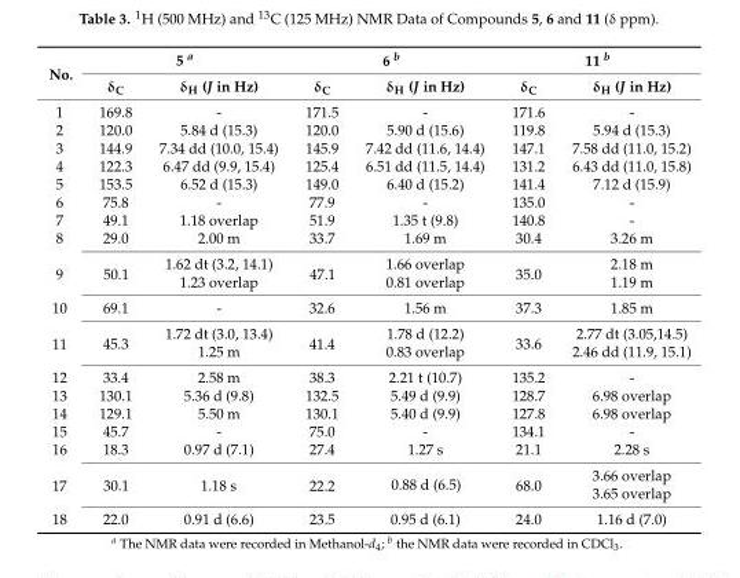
<table><thead><tr><td rowspan="2">No.</td><td colspan="2">5 <sup>a</sup></td><td colspan="2">6 <sup>b</sup></td><td colspan="2">11 <sup>b</sup></td></tr><tr><td>δ<sub>C</sub></td><td>δ<sub>H</sub> (J in Hz)</td><td>δ<sub>C</sub></td><td>δ<sub>H</sub> (J in Hz)</td><td>δ<sub>C</sub></td><td>δ<sub>H</sub> (J in Hz)</td></tr></thead><tbody><tr><td>1</td><td>169.8</td><td>-</td><td>171.5</td><td>-</td><td>171.6</td><td>-</td></tr><tr><td>2</td><td>120.0</td><td>5.84 d (15.3)</td><td>120.0</td><td>5.90 d (15.6)</td><td>119.8</td><td>5.94 d (15.3)</td></tr><tr><td>3</td><td>144.9</td><td>7.34 dd (10.0, 15.4)</td><td>145.9</td><td>7.42 dd (11.6, 14.4)</td><td>147.1</td><td>7.58 dd (11.0, 15.2)</td></tr><tr><td>4</td><td>122.3</td><td>6.47 dd (9.9, 15.4)</td><td>125.4</td><td>6.51 dd (11.5, 14.4)</td><td>131.2</td><td>6.43 dd (11.0, 15.8)</td></tr><tr><td>5</td><td>153.5</td><td>6.52 d (15.3)</td><td>149.0</td><td>6.40 d (15.2)</td><td>141.4</td><td>7.12 d (15.9)</td></tr><tr><td>6</td><td>75.8</td><td>-</td><td>77.9</td><td>-</td><td>135.0</td><td>-</td></tr><tr><td>7</td><td>49.1</td><td>1.18 overlap</td><td>51.9</td><td>1.35 t (9.8)</td><td>140.8</td><td>-</td></tr><tr><td>8</td><td>29.0</td><td>2.00 m</td><td>33.7</td><td>1.69 m</td><td>30.4</td><td>3.26 m</td></tr><tr><td rowspan="2">9</td><td rowspan="2">50.1</td><td>1.62 dt (3.2, 14.1)</td><td rowspan="2">47.1</td><td>1.66 overlap</td><td rowspan="2">35.0</td><td>2.18 m</td></tr><tr><td>1.23 overlap</td><td>0.81 overlap</td><td>1.19 m</td></tr><tr><td>10</td><td>69.1</td><td>-</td><td>32.6</td><td>1.56 m</td><td>37.3</td><td>1.85 m</td></tr><tr><td rowspan="2">11</td><td rowspan="2">45.3</td><td>1.72 dt (3.0, 13.4)</td><td rowspan="2">41.4</td><td>1.78 d (12.2)</td><td rowspan="2">33.6</td><td>2.77 dt (3.05,14.5)</td></tr><tr><td>1.25 m</td><td>0.83 overlap</td><td>2.46 dd (11.9, 15.1)</td></tr><tr><td>12</td><td>33.4</td><td>2.58 m</td><td>38.3</td><td>2.21 t (10.7)</td><td>135.2</td><td>-</td></tr><tr><td>13</td><td>130.1</td><td>5.36 d (9.8)</td><td>132.5</td><td>5.49 d (9.9)</td><td>128.7</td><td>6.98 overlap</td></tr><tr><td>14</td><td>129.1</td><td>5.50 m</td><td>130.1</td><td>5.40 d (9.9)</td><td>127.8</td><td>6.98 overlap</td></tr><tr><td>15</td><td>45.7</td><td>-</td><td>75.0</td><td>-</td><td>134.1</td><td>-</td></tr><tr><td>16</td><td>18.3</td><td>0.97 d (7.1)</td><td>27.4</td><td>1.27 s</td><td>21.1</td><td>2.28 s</td></tr><tr><td rowspan="2">17</td><td rowspan="2">30.1</td><td rowspan="2">1.18 s</td><td rowspan="2">22.2</td><td rowspan="2">0.88 d (6.5)</td><td rowspan="2">68.0</td><td>3.66 overlap</td></tr><tr><td>3.65 overlap</td></tr><tr><td>18</td><td>22.0</td><td>0.91 d (6.6)</td><td>23.5</td><td>0.95 d (6.1)</td><td>24.0</td><td>1.16 d (7.0)</td></tr></tbody></table>